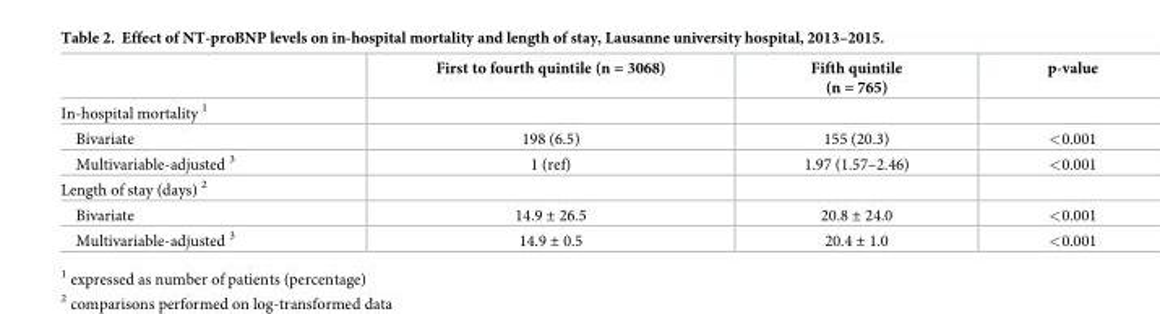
<table><thead><tr><td></td><td>First to fourth quintile (n = 3068)</td><td>Fifth quintile (n = 765)</td><td>p-value</td></tr></thead><tbody><tr><td colspan="4">In-hospital mortality <sup>1</sup></td></tr><tr><td>Bivariate</td><td>198 (6.5)</td><td>155 (20.3)</td><td>&lt;0.001</td></tr><tr><td>Multivariable-adjusted <sup>3</sup></td><td>1 (ref)</td><td>1.97 (1.57–2.46)</td><td>&lt;0.001</td></tr><tr><td colspan="4">Length of stay (days) <sup>2</sup></td></tr><tr><td>Bivariate</td><td>14.9 ± 26.5</td><td>20.8 ± 24.0</td><td>&lt;0.001</td></tr><tr><td>Multivariable-adjusted <sup>3</sup></td><td>14.9 ± 0.5</td><td>20.4 ± 1.0</td><td>&lt;0.001</td></tr></tbody></table>